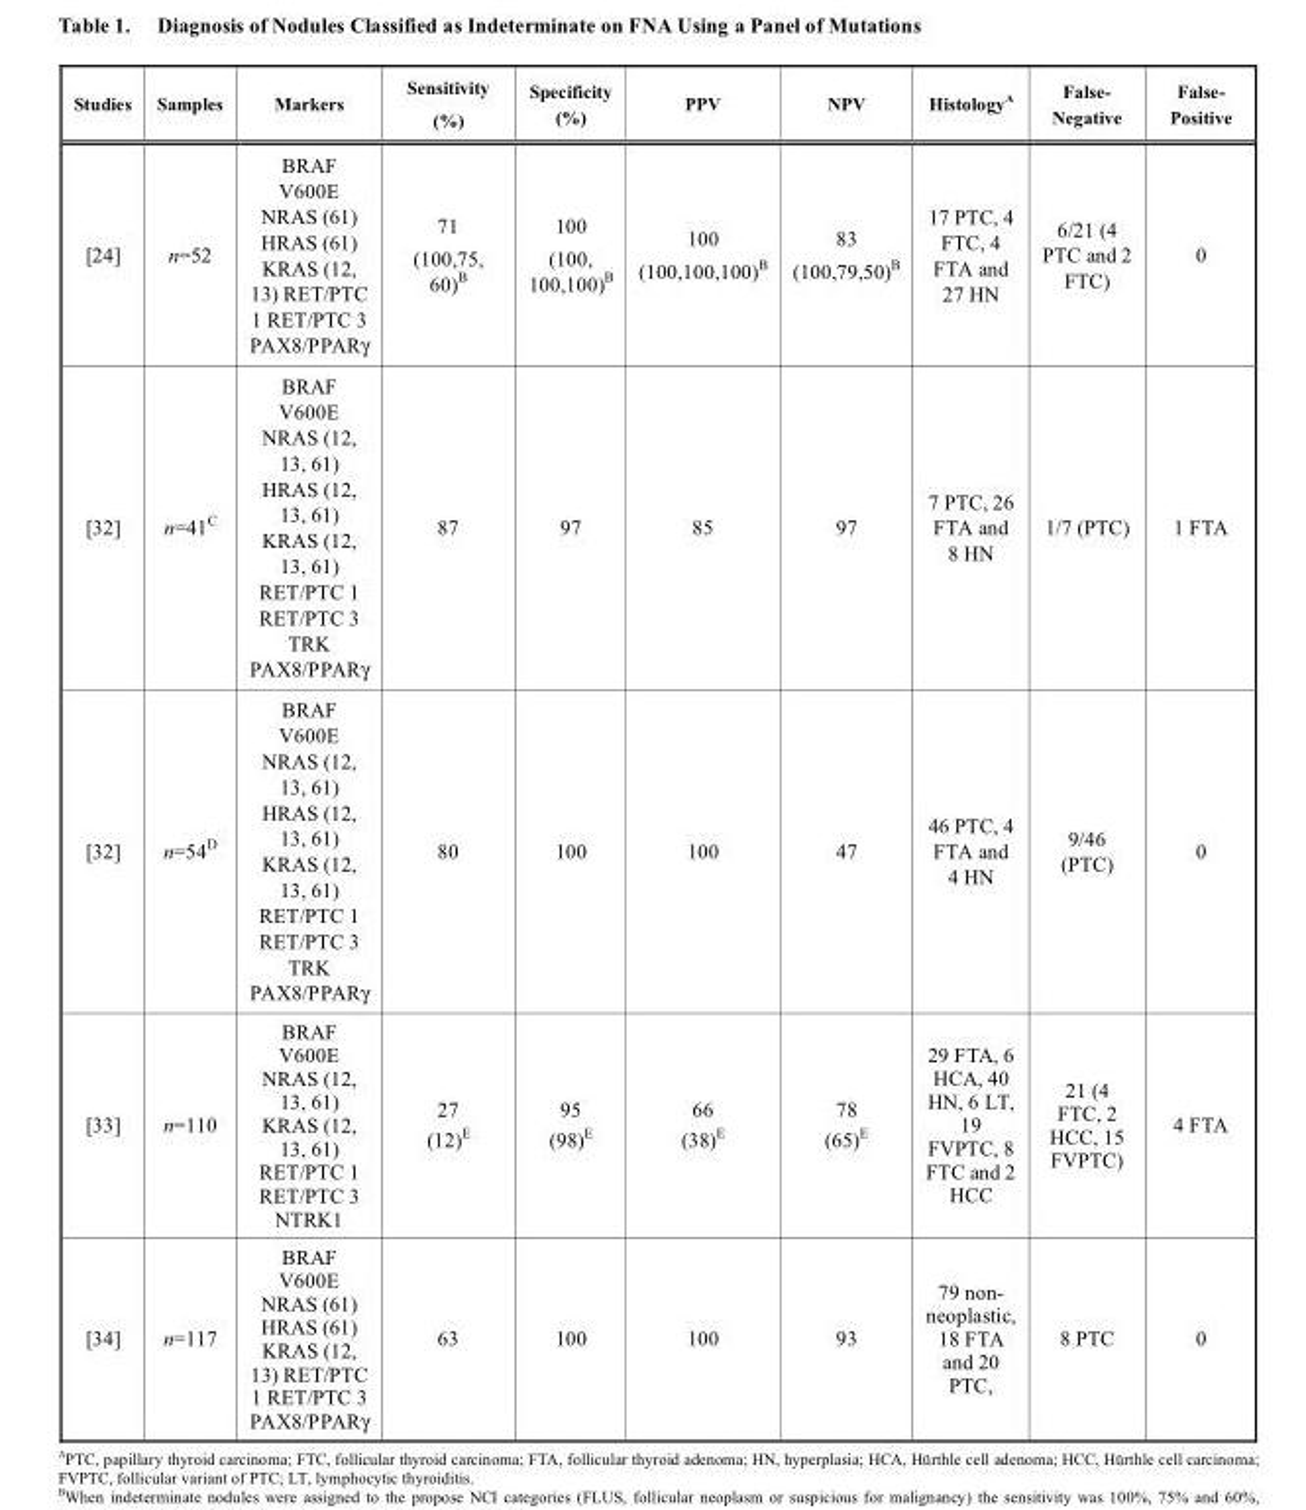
<table><thead><tr><td>Studies</td><td>Samples</td><td>Markers</td><td>Sensitivity (%)</td><td>Specificity (%)</td><td>PPV</td><td>NPV</td><td>Histology<sup>A</sup></td><td>False- Negative</td><td>False- Positive</td></tr></thead><tbody><tr><td>[24]</td><td>n=52</td><td>BRAF V600E NRAS (61) HRAS (61) KRAS (12, 13) RET/PTC 1 RET/PTC 3 PAX8/PPARγ</td><td>71 (100,75, 60)<sup>B</sup></td><td>100 (100, 100,100)<sup>B</sup></td><td>100 (100,100,100)<sup>B</sup></td><td>83 (100,79,50)<sup>B</sup></td><td>17 PTC, 4 FTC, 4 FTA and 27 HN</td><td>6/21 (4 PTC and 2 FTC)</td><td>0</td></tr><tr><td>[32]</td><td>n=41<sup>C</sup></td><td>BRAF V600E NRAS (12, 13, 61) HRAS (12, 13, 61) KRAS (12, 13, 61) RET/PTC 1 RET/PTC 3 TRK PAX8/PPARγ</td><td>87</td><td>97</td><td>85</td><td>97</td><td>7 PTC, 26 FTA and 8 HN</td><td>1/7 (PTC)</td><td>1 FTA</td></tr><tr><td>[32]</td><td>n=54<sup>D</sup></td><td>BRAF V600E NRAS (12, 13, 61) HRAS (12, 13, 61) KRAS (12, 13, 61) RET/PTC 1 RET/PTC 3 TRK PAX8/PPARγ</td><td>80</td><td>100</td><td>100</td><td>47</td><td>46 PTC, 4 FTA and 4 HN</td><td>9/46 (PTC)</td><td>0</td></tr><tr><td>[33]</td><td>n=110</td><td>BRAF V600E NRAS (12, 13, 61) KRAS (12, 13, 61) RET/PTC 1 RET/PTC 3 NTRK1</td><td>27 (12)<sup>E</sup></td><td>95 (98)<sup>E</sup></td><td>66 (38)<sup>E</sup></td><td>78 (65)<sup>E</sup></td><td>29 FTA, 6 HCA, 40 HN, 6 LT, 19 FVPTC, 8 FTC and 2 HCC</td><td>21 (4 FTC, 2 HCC, 15 FVPTC)</td><td>4 FTA</td></tr><tr><td>[34]</td><td>n=117</td><td>BRAF V600E NRAS (61) HRAS (61) KRAS (12, 13) RET/PTC 1 RET/PTC 3 PAX8/PPARγ</td><td>63</td><td>100</td><td>100</td><td>93</td><td>79 non- neoplastic, 18 FTA and 20 PTC,</td><td>8 PTC</td><td>0</td></tr></tbody></table>